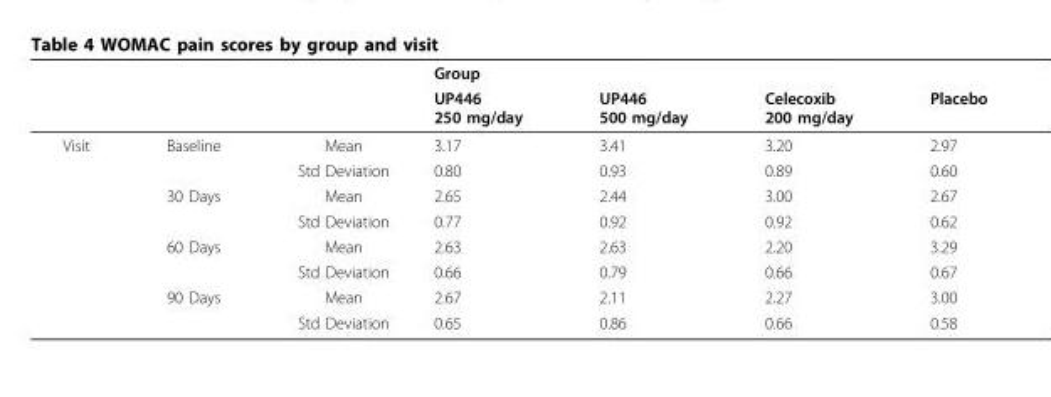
<table><thead><tr><td rowspan="2"></td><td rowspan="2"></td><td rowspan="2"></td><td colspan="4">Group</td></tr><tr><td>UP446 250 mg/day</td><td>UP446 500 mg/day</td><td>Celecoxib 200 mg/day</td><td>Placebo</td></tr></thead><tbody><tr><td rowspan="8">Visit</td><td>Baseline</td><td>Mean</td><td>3.17</td><td>3.41</td><td>3.20</td><td>2.97</td></tr><tr><td></td><td>Std Deviation</td><td>0.80</td><td>0.93</td><td>0.89</td><td>0.60</td></tr><tr><td>30 Days</td><td>Mean</td><td>2.65</td><td>2.44</td><td>3.00</td><td>2.67</td></tr><tr><td></td><td>Std Deviation</td><td>0.77</td><td>0.92</td><td>0.92</td><td>0.62</td></tr><tr><td>60 Days</td><td>Mean</td><td>2.63</td><td>2.63</td><td>2.20</td><td>3.29</td></tr><tr><td></td><td>Std Deviation</td><td>0.66</td><td>0.79</td><td>0.66</td><td>0.67</td></tr><tr><td>90 Days</td><td>Mean</td><td>2.67</td><td>2.11</td><td>2.27</td><td>3.00</td></tr><tr><td></td><td>Std Deviation</td><td>0.65</td><td>0.86</td><td>0.66</td><td>0.58</td></tr></tbody></table>